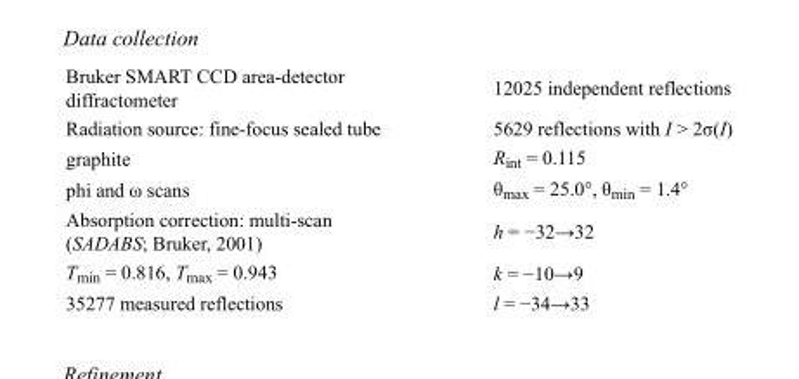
<table><tbody><tr><td>Bruker SMART CCD area-detector diffractometer</td><td>12025 independent reflections</td></tr><tr><td>Radiation source: fine-focus sealed tube</td><td>5629 reflections with I &gt; 2σ(I)</td></tr><tr><td>graphite</td><td>R<sub>int</sub> = 0.115</td></tr><tr><td>phi and ω scans</td><td>θ<sub>max</sub> = 25.0°, θ<sub>min</sub> = 1.4°</td></tr><tr><td>Absorption correction: multi-scan (SADABS; Bruker, 2001)</td><td>h = −32→32</td></tr><tr><td>T<sub>min</sub> = 0.816, T<sub>max</sub> = 0.943</td><td>k = −10→9</td></tr><tr><td>35277 measured reflections</td><td>l = −34→33</td></tr></tbody></table>